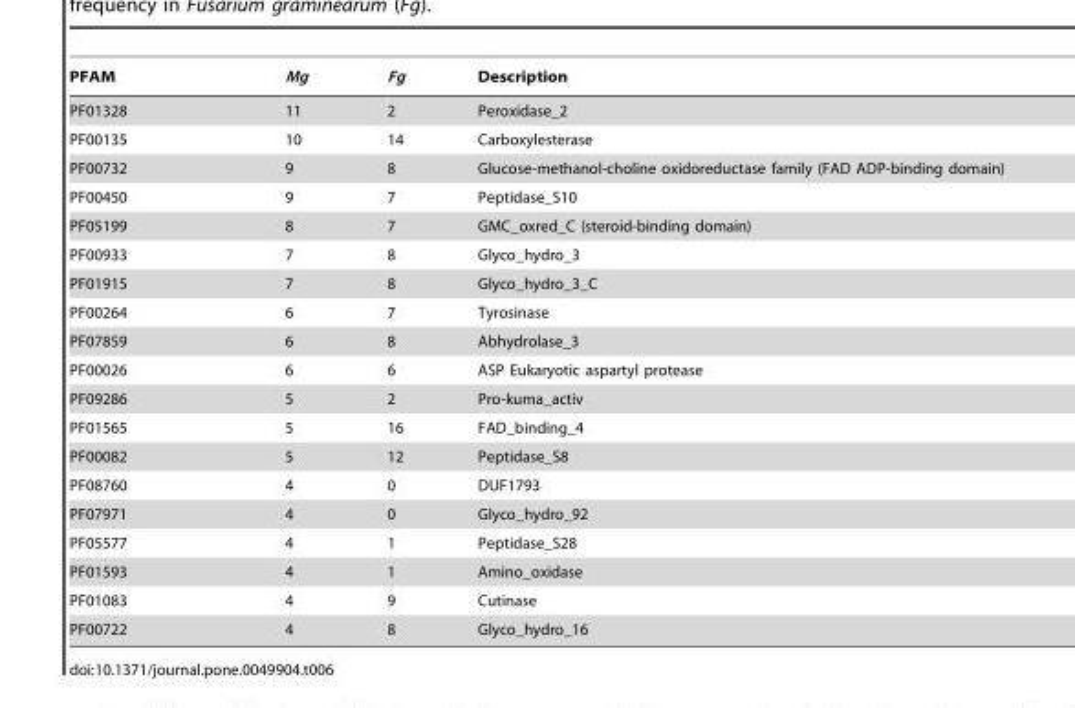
<table><thead><tr><td>PFAM</td><td>Mg</td><td>Fg</td><td>Description</td></tr></thead><tbody><tr><td>PF01328</td><td>11</td><td>2</td><td>Peroxidase_2</td></tr><tr><td>PF00135</td><td>10</td><td>14</td><td>Carboxylesterase</td></tr><tr><td>PF00732</td><td>9</td><td>8</td><td>Glucose-methanol-choline oxidoreductase family (FAD ADP-binding domain)</td></tr><tr><td>PF00450</td><td>9</td><td>7</td><td>Peptidase_S10</td></tr><tr><td>PF05199</td><td>8</td><td>7</td><td>GMC_oxred_C (steroid-binding domain)</td></tr><tr><td>PF00933</td><td>7</td><td>8</td><td>Glyco_hydro_3</td></tr><tr><td>PF01915</td><td>7</td><td>8</td><td>Glyco_hydro_3_C</td></tr><tr><td>PF00264</td><td>6</td><td>7</td><td>Tyrosinase</td></tr><tr><td>PF07859</td><td>6</td><td>8</td><td>Abhydrolase_3</td></tr><tr><td>PF00026</td><td>6</td><td>6</td><td>ASP Eukaryotic aspartyl protease</td></tr><tr><td>PF09286</td><td>5</td><td>2</td><td>Pro-kuma_activ</td></tr><tr><td>PF01565</td><td>5</td><td>16</td><td>FAD_binding_4</td></tr><tr><td>PF00082</td><td>5</td><td>12</td><td>Peptidase_S8</td></tr><tr><td>PF08760</td><td>4</td><td>0</td><td>DUF1793</td></tr><tr><td>PF07971</td><td>4</td><td>0</td><td>Glyco_hydro_92</td></tr><tr><td>PF05577</td><td>4</td><td>1</td><td>Peptidase_S28</td></tr><tr><td>PF01593</td><td>4</td><td>1</td><td>Amino_oxidase</td></tr><tr><td>PF01083</td><td>4</td><td>9</td><td>Cutinase</td></tr><tr><td>PF00722</td><td>4</td><td>8</td><td>Glyco_hydro_16</td></tr></tbody></table>